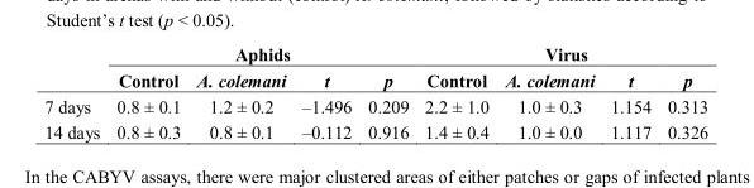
<table><thead><tr><td rowspan="2"></td><td colspan="4">Aphids</td><td colspan="4">Virus</td></tr><tr><td>Control</td><td>A. colemani</td><td>t</td><td>p</td><td>Control</td><td>A. colemani</td><td>t</td><td>p</td></tr></thead><tbody><tr><td>7 days</td><td>0.8 ± 0.1</td><td>1.2 ± 0.2</td><td>–1.496</td><td>0.209</td><td>2.2 ± 1.0</td><td>1.0 ± 0.3</td><td>1.154</td><td>0.313</td></tr><tr><td>14 days</td><td>0.8 ± 0.3</td><td>0.8 ± 0.1</td><td>–0.112</td><td>0.916</td><td>1.4 ± 0.4</td><td>1.0 ± 0.0</td><td>1.117</td><td>0.326</td></tr></tbody></table>